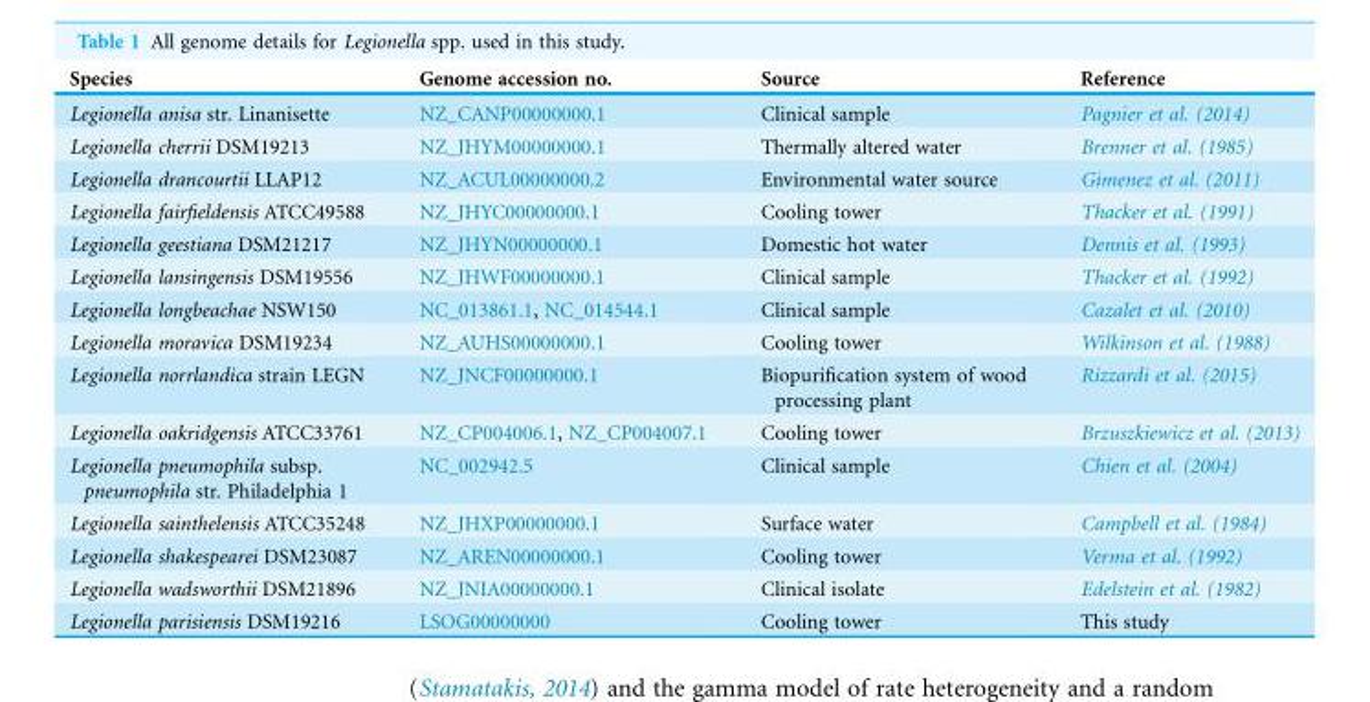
<table><thead><tr><td>Species</td><td>Genome accession no.</td><td>Source</td><td>Reference</td></tr></thead><tbody><tr><td>Legionella anisa str. Linanisette</td><td>NZ_CANP00000000.1</td><td>Clinical sample</td><td>Pagnier et al. (2014)</td></tr><tr><td>Legionella cherrii DSM19213</td><td>NZ_JHYM00000000.1</td><td>Thermally altered water</td><td>Brenner et al. (1985)</td></tr><tr><td>Legionella drancourtii LLAP12</td><td>NZ_ACUL00000000.2</td><td>Environmental water source</td><td>Gimenez et al. (2011)</td></tr><tr><td>Legionella fairfieldensis ATCC49588</td><td>NZ_JHYC00000000.1</td><td>Cooling tower</td><td>Thacker et al. (1991)</td></tr><tr><td>Legionella geestiana DSM21217</td><td>NZ_JHYN00000000.1</td><td>Domestic hot water</td><td>Dennis et al. (1993)</td></tr><tr><td>Legionella lansingensis DSM19556</td><td>NZ_JHWF00000000.1</td><td>Clinical sample</td><td>Thacker et al. (1992)</td></tr><tr><td>Legionella longbeachae NSW150</td><td>NC_013861.1, NC_014544.1</td><td>Clinical sample</td><td>Cazalet et al. (2010)</td></tr><tr><td>Legionella moravica DSM19234</td><td>NZ_AUHS00000000.1</td><td>Cooling tower</td><td>Wilkinson et al. (1988)</td></tr><tr><td>Legionella norrlandica strain LEGN</td><td>NZ_JNCF00000000.1</td><td>Biopurification system of wood processing plant</td><td>Rizzardi et al. (2015)</td></tr><tr><td>Legionella oakridgensis ATCC33761</td><td>NZ_CP004006.1, NZ_CP004007.1</td><td>Cooling tower</td><td>Brzuszkiewicz et al. (2013)</td></tr><tr><td>Legionella pneumophila subsp. pneumophila str. Philadelphia 1</td><td>NC_002942.5</td><td>Clinical sample</td><td>Chien et al. (2004)</td></tr><tr><td>Legionella sainthelensis ATCC35248</td><td>NZ_JHXP00000000.1</td><td>Surface water</td><td>Campbell et al. (1984)</td></tr><tr><td>Legionella shakespearei DSM23087</td><td>NZ_AREN00000000.1</td><td>Cooling tower</td><td>Verma et al. (1992)</td></tr><tr><td>Legionella wadsworthii DSM21896</td><td>NZ_JNIA00000000.1</td><td>Clinical isolate</td><td>Edelstein et al. (1982)</td></tr><tr><td>Legionella parisiensis DSM19216</td><td>LSOG00000000</td><td>Cooling tower</td><td>This study</td></tr></tbody></table>